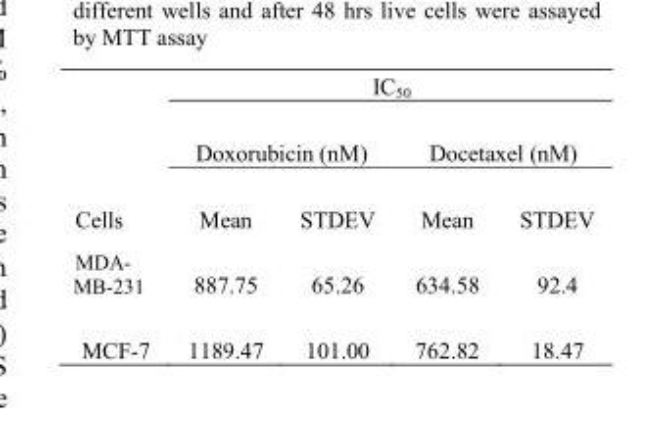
<table><thead><tr><td rowspan="3">Cells</td><td colspan="4">IC<sub>50</sub></td></tr><tr><td colspan="2">Doxorubicin (nM)</td><td colspan="2">Docetaxel (nM)</td></tr><tr><td>Mean</td><td>STDEV</td><td>Mean</td><td>STDEV</td></tr></thead><tbody><tr><td>MDA- MB-231</td><td>887.75</td><td>65.26</td><td>634.58</td><td>92.4</td></tr><tr><td>MCF-7</td><td>1189.47</td><td>101.00</td><td>762.82</td><td>18.47</td></tr></tbody></table>